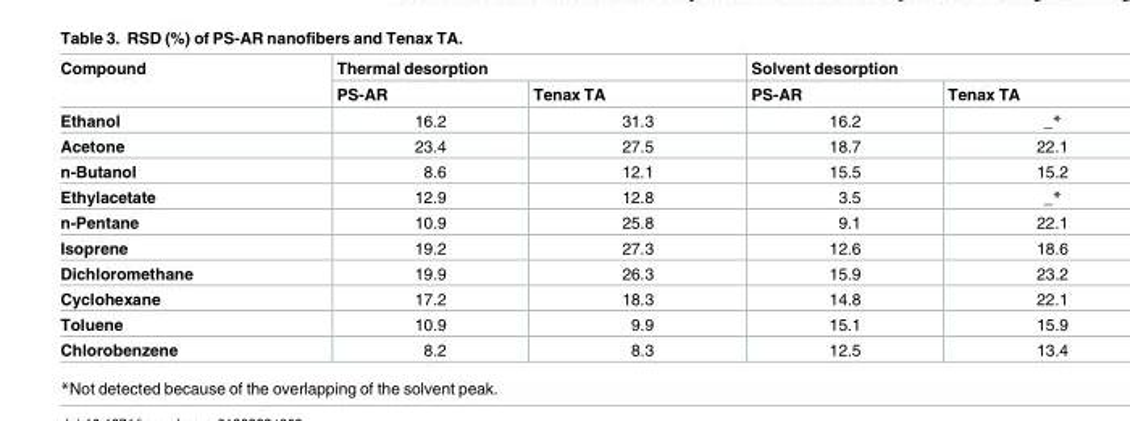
<table><thead><tr><td rowspan="2">Compound</td><td colspan="2">Thermal desorption</td><td colspan="2">Solvent desorption</td></tr><tr><td>PS-AR</td><td>Tenax TA</td><td>PS-AR</td><td>Tenax TA</td></tr></thead><tbody><tr><td>Ethanol</td><td>16.2</td><td>31.3</td><td>16.2</td><td>_*</td></tr><tr><td>Acetone</td><td>23.4</td><td>27.5</td><td>18.7</td><td>22.1</td></tr><tr><td>n-Butanol</td><td>8.6</td><td>12.1</td><td>15.5</td><td>15.2</td></tr><tr><td>Ethylacetate</td><td>12.9</td><td>12.8</td><td>3.5</td><td>_*</td></tr><tr><td>n-Pentane</td><td>10.9</td><td>25.8</td><td>9.1</td><td>22.1</td></tr><tr><td>Isoprene</td><td>19.2</td><td>27.3</td><td>12.6</td><td>18.6</td></tr><tr><td>Dichloromethane</td><td>19.9</td><td>26.3</td><td>15.9</td><td>23.2</td></tr><tr><td>Cyclohexane</td><td>17.2</td><td>18.3</td><td>14.8</td><td>22.1</td></tr><tr><td>Toluene</td><td>10.9</td><td>9.9</td><td>15.1</td><td>15.9</td></tr><tr><td>Chlorobenzene</td><td>8.2</td><td>8.3</td><td>12.5</td><td>13.4</td></tr></tbody></table>